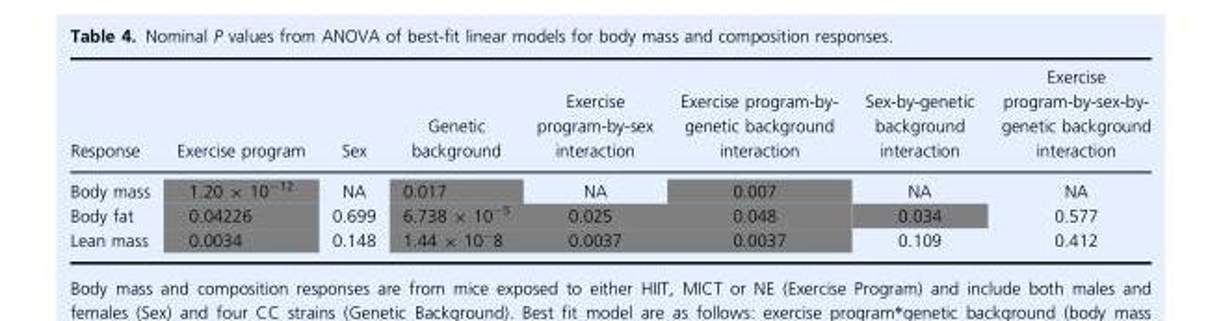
<table><thead><tr><td>Response</td><td>Exercise program</td><td>Sex</td><td>Genetic background</td><td>Exercise program-by-sex interaction</td><td>Exercise program-by- genetic background interaction</td><td>Sex-by-genetic background interaction</td><td>Exercise program-by-sex-by- genetic background interaction</td></tr></thead><tbody><tr><td>Body mass</td><td>1.20 × 10<sup>−12</sup></td><td>NA</td><td>0.017</td><td>NA</td><td>0.007</td><td>NA</td><td>NA</td></tr><tr><td>Body fat</td><td>0.04226</td><td>0.699</td><td>6.738 × 10<sup>−5</sup></td><td>0.025</td><td>0.048</td><td>0.034</td><td>0.577</td></tr><tr><td>Lean mass</td><td>0.0034</td><td>0.148</td><td>1.44 × 10<sup>−</sup>8</td><td>0.0037</td><td>0.0037</td><td>0.109</td><td>0.412</td></tr></tbody></table>